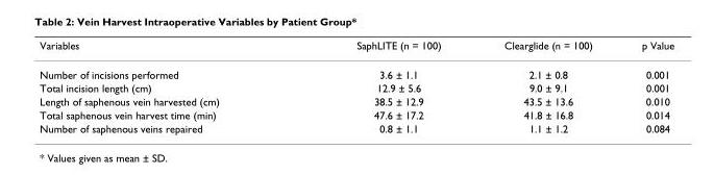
<table><thead><tr><td>Variables</td><td>SaphLITE (n = 100)</td><td>Clearglide (n = 100)</td><td>p Value</td></tr></thead><tbody><tr><td>Number of incisions performed</td><td>3.6 ± 1.1</td><td>2.1 ± 0.8</td><td>0.001</td></tr><tr><td>Total incision length (cm)</td><td>12.9 ± 5.6</td><td>9.0 ± 9.1</td><td>0.001</td></tr><tr><td>Length of saphenous vein harvested (cm)</td><td>38.5 ± 12.9</td><td>43.5 ± 13.6</td><td>0.010</td></tr><tr><td>Total saphenous vein harvest time (min)</td><td>47.6 ± 17.2</td><td>41.8 ± 16.8</td><td>0.014</td></tr><tr><td>Number of saphenous veins repaired</td><td>0.8 ± 1.1</td><td>1.1 ± 1.2</td><td>0.084</td></tr></tbody></table>